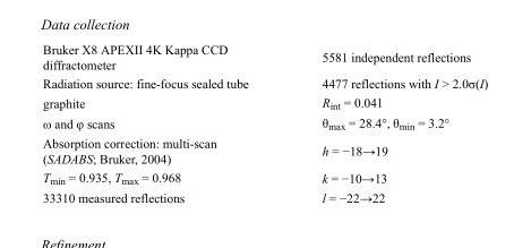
<table><tbody><tr><td>Bruker X8 APEXII 4K Kappa CCD diffractometer</td><td>5581 independent reflections</td></tr><tr><td>Radiation source: fine-focus sealed tube</td><td>4477 reflections with I &gt; 2.0σ(I)</td></tr><tr><td>graphite</td><td>R<sub>int</sub> = 0.041</td></tr><tr><td>ω and φ scans</td><td>θ<sub>max</sub> = 28.4°, θ<sub>min</sub> = 3.2°</td></tr><tr><td>Absorption correction: multi-scan (SADABS; Bruker, 2004)</td><td>h = −18→19</td></tr><tr><td>T<sub>min</sub> = 0.935, T<sub>max</sub> = 0.968</td><td>k = −10→13</td></tr><tr><td>33310 measured reflections</td><td>l = −22→22</td></tr></tbody></table>